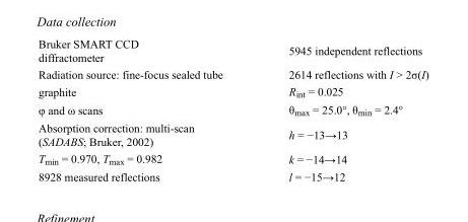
<table><tbody><tr><td>Bruker SMART CCD diffractometer</td><td>5945 independent reflections</td></tr><tr><td>Radiation source: fine-focus sealed tube</td><td>2614 reflections with I &gt; 2σ(I)</td></tr><tr><td>graphite</td><td>R<sub>int</sub> = 0.025</td></tr><tr><td>φ and ω scans</td><td>θ<sub>max</sub> = 25.0°, θ<sub>min</sub> = 2.4°</td></tr><tr><td>Absorption correction: multi-scan (SADABS; Bruker, 2002)</td><td>h = −13→13</td></tr><tr><td>T<sub>min</sub> = 0.970, T<sub>max</sub> = 0.982</td><td>k = −14→14</td></tr><tr><td>8928 measured reflections</td><td>l = −15→12</td></tr></tbody></table>